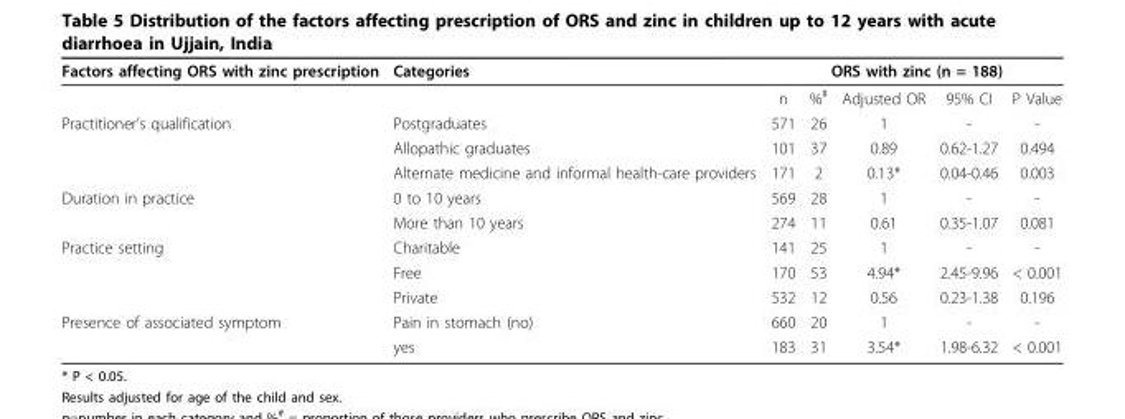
<table><thead><tr><td rowspan="2">Factors affecting ORS with zinc prescription</td><td rowspan="2">Categories</td><td colspan="5">ORS with zinc (n = 188)</td></tr><tr><td>n</td><td>%<sup>#</sup></td><td>Adjusted OR</td><td>95% CI</td><td>P Value</td></tr></thead><tbody><tr><td rowspan="3">Practitioner’s qualification</td><td>Postgraduates</td><td>571</td><td>26</td><td>1</td><td>-</td><td>-</td></tr><tr><td>Allopathic graduates</td><td>101</td><td>37</td><td>0.89</td><td>0.62-1.27</td><td>0.494</td></tr><tr><td>Alternate medicine and informal health-care providers</td><td>171</td><td>2</td><td>0.13*</td><td>0.04-0.46</td><td>0.003</td></tr><tr><td rowspan="2">Duration in practice</td><td>0 to 10 years</td><td>569</td><td>28</td><td>1</td><td>-</td><td>-</td></tr><tr><td>More than 10 years</td><td>274</td><td>11</td><td>0.61</td><td>0.35-1.07</td><td>0.081</td></tr><tr><td rowspan="3">Practice setting</td><td>Charitable</td><td>141</td><td>25</td><td>1</td><td>-</td><td>-</td></tr><tr><td>Free</td><td>170</td><td>53</td><td>4.94*</td><td>2.45-9.96</td><td>&lt; 0.001</td></tr><tr><td>Private</td><td>532</td><td>12</td><td>0.56</td><td>0.23-1.38</td><td>0.196</td></tr><tr><td rowspan="2">Presence of associated symptom</td><td>Pain in stomach (no)</td><td>660</td><td>20</td><td>1</td><td>-</td><td>-</td></tr><tr><td>yes</td><td>183</td><td>31</td><td>3.54*</td><td>1.98-6.32</td><td>&lt; 0.001</td></tr></tbody></table>